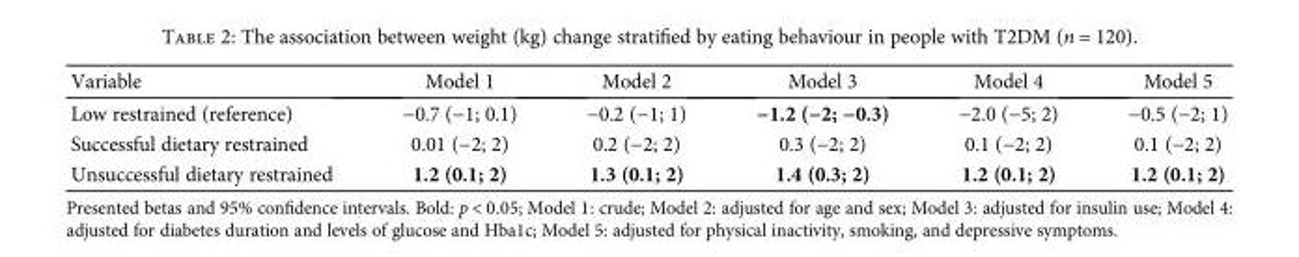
<table><thead><tr><td>Variable</td><td>Model 1</td><td>Model 2</td><td>Model 3</td><td>Model 4</td><td>Model 5</td></tr></thead><tbody><tr><td>Low restrained (reference)</td><td>−0.7 (−1; 0.1)</td><td>−0.2 (−1; 1)</td><td>−1.2 (−2; −0.3)</td><td>−2.0 (−5; 2)</td><td>−0.5 (−2; 1)</td></tr><tr><td>Successful dietary restrained</td><td>0.01 (−2; 2)</td><td>0.2 (−2; 2)</td><td>0.3 (−2; 2)</td><td>0.1 (−2; 2)</td><td>0.1 (−2; 2)</td></tr><tr><td>Unsuccessful dietary restrained</td><td>1.2 (0.1; 2)</td><td>1.3 (0.1; 2)</td><td>1.4 (0.3; 2)</td><td>1.2 (0.1; 2)</td><td>1.2 (0.1; 2)</td></tr></tbody></table>